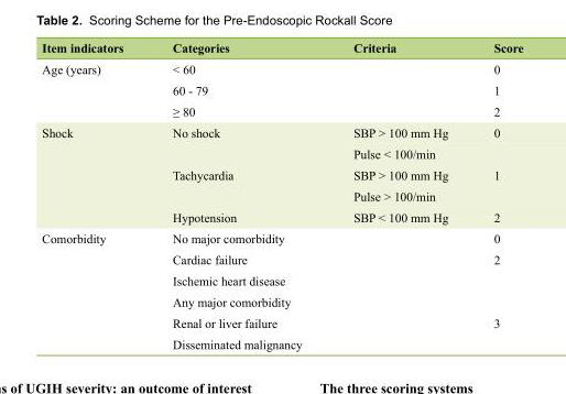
<table><thead><tr><td>Item indicators</td><td>Categories</td><td>Criteria</td><td>Score</td></tr></thead><tbody><tr><td rowspan="3">Age (years)</td><td>&lt; 60</td><td></td><td>0</td></tr><tr><td>60 - 79</td><td></td><td>1</td></tr><tr><td>≥ 80</td><td></td><td>2</td></tr><tr><td rowspan="5">Shock</td><td rowspan="2">No shock</td><td>SBP &gt; 100 mm Hg</td><td>0</td></tr><tr><td>Pulse &lt; 100/min</td><td></td></tr><tr><td rowspan="2">Tachycardia</td><td>SBP &gt; 100 mm Hg</td><td>1</td></tr><tr><td>Pulse &gt; 100/min</td><td></td></tr><tr><td>Hypotension</td><td>SBP &lt; 100 mm Hg</td><td>2</td></tr><tr><td rowspan="6">Comorbidity</td><td>No major comorbidity</td><td></td><td>0</td></tr><tr><td>Cardiac failure</td><td></td><td>2</td></tr><tr><td>Ischemic heart disease</td><td></td><td></td></tr><tr><td>Any major comorbidity</td><td></td><td></td></tr><tr><td>Renal or liver failure</td><td></td><td>3</td></tr><tr><td>Disseminated malignancy</td><td></td><td></td></tr></tbody></table>